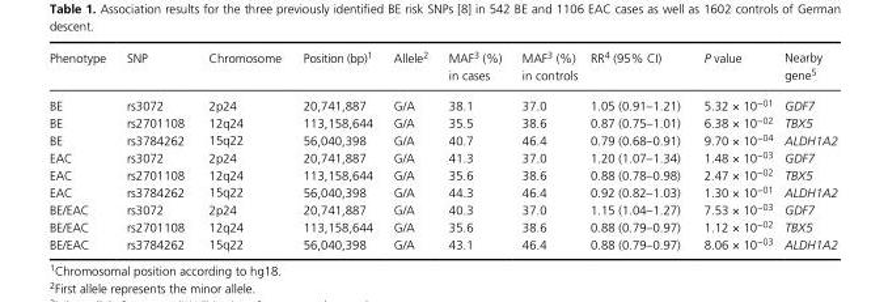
<table><thead><tr><td>Phenotype</td><td>SNP</td><td>Chromosome</td><td>Position (bp)1</td><td>Allele2</td><td>MAF3 (%) in cases</td><td>MAF3 (%) in controls</td><td>RR4 (95% CI)</td><td>P value</td><td>Nearby gene5</td></tr></thead><tbody><tr><td>BE</td><td>rs3072</td><td>2p24</td><td>20,741,887</td><td>G/A</td><td>38.1</td><td>37.0</td><td>1.05 (0.91–1.21)</td><td>5.32 × 10<sup>−01</sup></td><td>GDF7</td></tr><tr><td>BE</td><td>rs2701108</td><td>12q24</td><td>113,158,644</td><td>G/A</td><td>35.5</td><td>38.6</td><td>0.87 (0.75–1.01)</td><td>6.38 × 10<sup>−02</sup></td><td>TBX5</td></tr><tr><td>BE</td><td>rs3784262</td><td>15q22</td><td>56,040,398</td><td>G/A</td><td>40.7</td><td>46.4</td><td>0.79 (0.68–0.91)</td><td>9.70 × 10<sup>−04</sup></td><td>ALDH1A2</td></tr><tr><td>EAC</td><td>rs3072</td><td>2p24</td><td>20,741,887</td><td>G/A</td><td>41.3</td><td>37.0</td><td>1.20 (1.07–1.34)</td><td>1.48 × 10<sup>−03</sup></td><td>GDF7</td></tr><tr><td>EAC</td><td>rs2701108</td><td>12q24</td><td>113,158,644</td><td>G/A</td><td>35.6</td><td>38.6</td><td>0.88 (0.78–0.98)</td><td>2.47 × 10<sup>−02</sup></td><td>TBX5</td></tr><tr><td>EAC</td><td>rs3784262</td><td>15q22</td><td>56,040,398</td><td>G/A</td><td>44.3</td><td>46.4</td><td>0.92 (0.82–1.03)</td><td>1.30 × 10<sup>−01</sup></td><td>ALDH1A2</td></tr><tr><td>BE/EAC</td><td>rs3072</td><td>2p24</td><td>20,741,887</td><td>G/A</td><td>40.3</td><td>37.0</td><td>1.15 (1.04–1.27)</td><td>7.53 × 10<sup>−03</sup></td><td>GDF7</td></tr><tr><td>BE/EAC</td><td>rs2701108</td><td>12q24</td><td>113,158,644</td><td>G/A</td><td>35.6</td><td>38.6</td><td>0.88 (0.79–0.97)</td><td>1.12 × 10<sup>−02</sup></td><td>TBX5</td></tr><tr><td>BE/EAC</td><td>rs3784262</td><td>15q22</td><td>56,040,398</td><td>G/A</td><td>43.1</td><td>46.4</td><td>0.88 (0.79–0.97)</td><td>8.06 × 10<sup>−03</sup></td><td>ALDH1A2</td></tr></tbody></table>